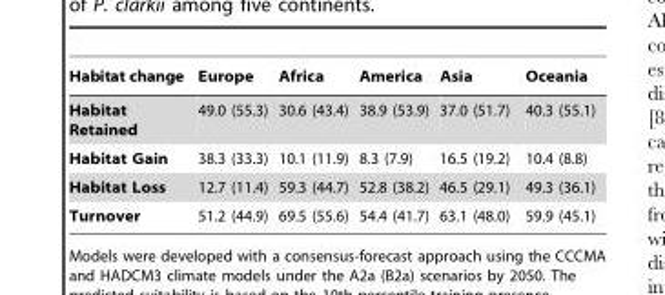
<table><thead><tr><td>Habitat change</td><td>Europe</td><td>Africa</td><td>America</td><td>Asia</td><td>Oceania</td></tr></thead><tbody><tr><td>Habitat Retained</td><td>49.0 (55.3)</td><td>30.6 (43.4)</td><td>38.9 (53.9)</td><td>37.0 (51.7)</td><td>40.3 (55.1)</td></tr><tr><td>Habitat Gain</td><td>38.3 (33.3)</td><td>10.1 (11.9)</td><td>8.3 (7.9)</td><td>16.5 (19.2)</td><td>10.4 (8.8)</td></tr><tr><td>Habitat Loss</td><td>12.7 (11.4)</td><td>59.3 (44.7)</td><td>52.8 (38.2)</td><td>46.5 (29.1)</td><td>49.3 (36.1)</td></tr><tr><td>Turnover</td><td>51.2 (44.9)</td><td>69.5 (55.6)</td><td>54.4 (41.7)</td><td>63.1 (48.0)</td><td>59.9 (45.1)</td></tr></tbody></table>